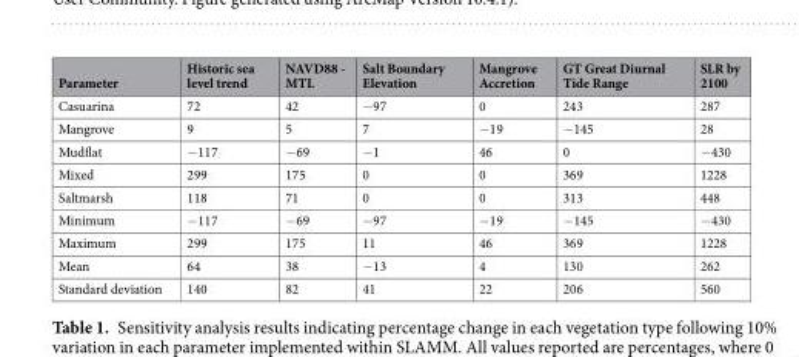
<table><thead><tr><td>Parameter</td><td>Historic sea level trend</td><td>NAVD88 - MTL</td><td>Salt Boundary Elevation</td><td>Mangrove Accretion</td><td>GT Great Diurnal Tide Range</td><td>SLR by 2100</td></tr></thead><tbody><tr><td>Casuarina</td><td>72</td><td>42</td><td>−97</td><td>0</td><td>243</td><td>287</td></tr><tr><td>Mangrove</td><td>9</td><td>5</td><td>7</td><td>−19</td><td>−145</td><td>28</td></tr><tr><td>Mudflat</td><td>−117</td><td>−69</td><td>−1</td><td>46</td><td>0</td><td>−430</td></tr><tr><td>Mixed</td><td>299</td><td>175</td><td>0</td><td>0</td><td>369</td><td>1228</td></tr><tr><td>Saltmarsh</td><td>118</td><td>71</td><td>0</td><td>0</td><td>313</td><td>448</td></tr><tr><td>Minimum</td><td>−117</td><td>−69</td><td>−97</td><td>−19</td><td>−145</td><td>−430</td></tr><tr><td>Maximum</td><td>299</td><td>175</td><td>11</td><td>46</td><td>369</td><td>1228</td></tr><tr><td>Mean</td><td>64</td><td>38</td><td>−13</td><td>4</td><td>130</td><td>262</td></tr><tr><td>Standard deviation</td><td>140</td><td>82</td><td>41</td><td>22</td><td>206</td><td>560</td></tr></tbody></table>